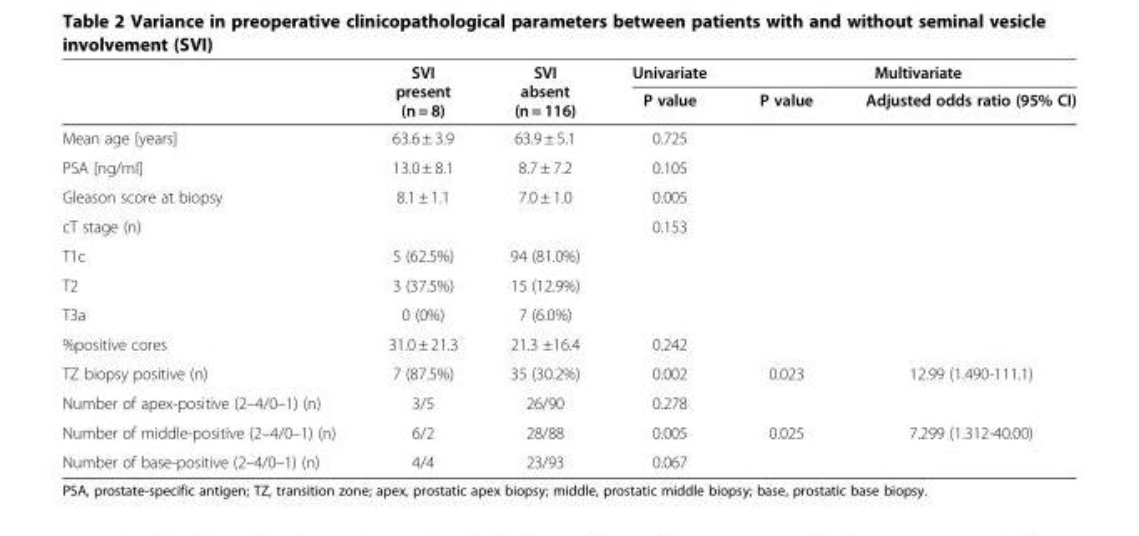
<table><thead><tr><td rowspan="2"></td><td rowspan="2">SVI present (n = 8)</td><td rowspan="2">SVI absent (n = 116)</td><td rowspan="2">Univariate P value</td><td colspan="2">Multivariate</td></tr><tr><td>P value</td><td>Adjusted odds ratio (95% CI)</td></tr></thead><tbody><tr><td>Mean age [years]</td><td>63.6 ± 3.9</td><td>63.9 ± 5.1</td><td>0.725</td><td></td><td></td></tr><tr><td>PSA [ng/ml]</td><td>13.0 ± 8.1</td><td>8.7 ± 7.2</td><td>0.105</td><td></td><td></td></tr><tr><td>Gleason score at biopsy</td><td>8.1 ± 1.1</td><td>7.0 ± 1.0</td><td>0.005</td><td></td><td></td></tr><tr><td>cT stage (n)</td><td></td><td></td><td>0.153</td><td></td><td></td></tr><tr><td>T1c</td><td>5 (62.5%)</td><td>94 (81.0%)</td><td></td><td></td><td></td></tr><tr><td>T2</td><td>3 (37.5%)</td><td>15 (12.9%)</td><td></td><td></td><td></td></tr><tr><td>T3a</td><td>0 (0%)</td><td>7 (6.0%)</td><td></td><td></td><td></td></tr><tr><td>%positive cores</td><td>31.0 ± 21.3</td><td>21.3 ±16.4</td><td>0.242</td><td></td><td></td></tr><tr><td>TZ biopsy positive (n)</td><td>7 (87.5%)</td><td>35 (30.2%)</td><td>0.002</td><td>0.023</td><td>12.99 (1.490-111.1)</td></tr><tr><td>Number of apex-positive (2–4/0–1) (n)</td><td>3/5</td><td>26/90</td><td>0.278</td><td></td><td></td></tr><tr><td>Number of middle-positive (2–4/0–1) (n)</td><td>6/2</td><td>28/88</td><td>0.005</td><td>0.025</td><td>7.299 (1.312-40.00)</td></tr><tr><td>Number of base-positive (2–4/0–1) (n)</td><td>4/4</td><td>23/93</td><td>0.067</td><td></td><td></td></tr></tbody></table>